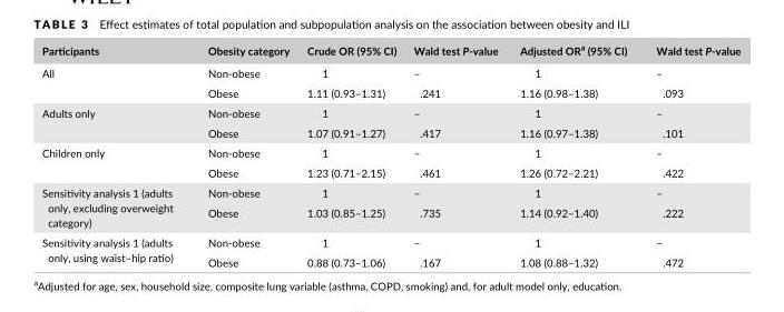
<table><thead><tr><td>Participants</td><td>Obesity category</td><td>Crude OR (95% CI)</td><td>Wald test P- value</td><td>Adjusted OR<sup>a</sup> (95% CI)</td><td>Wald test P- value</td></tr></thead><tbody><tr><td rowspan="2">All</td><td>Non- obese</td><td>1</td><td>–</td><td>1</td><td>–</td></tr><tr><td>Obese</td><td>1.11 (0.93–1.31)</td><td>.241</td><td>1.16 (0.98–1.38)</td><td>.093</td></tr><tr><td rowspan="2">Adults only</td><td>Non- obese</td><td>1</td><td>–</td><td>1</td><td>–</td></tr><tr><td>Obese</td><td>1.07 (0.91–1.27)</td><td>.417</td><td>1.16 (0.97–1.38)</td><td>.101</td></tr><tr><td rowspan="2">Children only</td><td>Non- obese</td><td>1</td><td>–</td><td>1</td><td>–</td></tr><tr><td>Obese</td><td>1.23 (0.71–2.15)</td><td>.461</td><td>1.26 (0.72–2.21)</td><td>.422</td></tr><tr><td rowspan="2">Sensitivity analysis 1 (adults only, excluding overweight category)</td><td>Non- obese</td><td>1</td><td>–</td><td>1</td><td>–</td></tr><tr><td>Obese</td><td>1.03 (0.85–1.25)</td><td>.735</td><td>1.14 (0.92–1.40)</td><td>.222</td></tr><tr><td rowspan="2">Sensitivity analysis 1 (adults only, using waist–hip ratio)</td><td>Non- obese</td><td>1</td><td>–</td><td>1</td><td>–</td></tr><tr><td>Obese</td><td>0.88 (0.73–1.06)</td><td>.167</td><td>1.08 (0.88–1.32)</td><td>.472</td></tr></tbody></table>